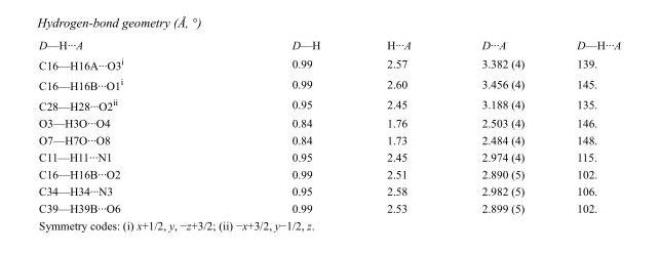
<table><tbody><tr><td>D—H···A</td><td>D—H</td><td>H···A</td><td>D···A</td><td>D—H···A</td></tr><tr><td>C16—H16A···O3<sup>i</sup></td><td>0.99</td><td>2.57</td><td>3.382 (4)</td><td>139.</td></tr><tr><td>C16—H16B···O1<sup>i</sup></td><td>0.99</td><td>2.60</td><td>3.456 (4)</td><td>145.</td></tr><tr><td>C28—H28···O2<sup>ii</sup></td><td>0.95</td><td>2.45</td><td>3.188 (4)</td><td>135.</td></tr><tr><td>O3—H3O···O4</td><td>0.84</td><td>1.76</td><td>2.503 (4)</td><td>146.</td></tr><tr><td>O7—H7O···O8</td><td>0.84</td><td>1.73</td><td>2.484 (4)</td><td>148.</td></tr><tr><td>C11—H11···N1</td><td>0.95</td><td>2.45</td><td>2.974 (4)</td><td>115.</td></tr><tr><td>C16—H16B···O2</td><td>0.99</td><td>2.51</td><td>2.890 (5)</td><td>102.</td></tr><tr><td>C34—H34···N3</td><td>0.95</td><td>2.58</td><td>2.982 (5)</td><td>106.</td></tr><tr><td>C39—H39B···O6</td><td>0.99</td><td>2.53</td><td>2.899 (5)</td><td>102.</td></tr></tbody></table>